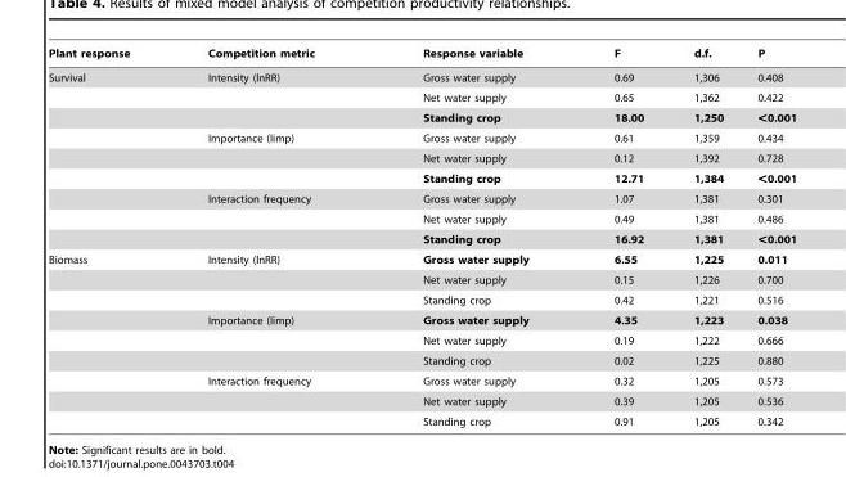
<table><thead><tr><td>Plant response</td><td>Competition metric</td><td>Response variable</td><td>F</td><td>d.f.</td><td>P</td></tr></thead><tbody><tr><td rowspan="9">Survival</td><td>Intensity (lnRR)</td><td>Gross water supply</td><td>0.69</td><td>1,306</td><td>0.408</td></tr><tr><td></td><td>Net water supply</td><td>0.65</td><td>1,362</td><td>0.422</td></tr><tr><td></td><td>Standing crop</td><td>18.00</td><td>1,250</td><td>&lt;0.001</td></tr><tr><td>Importance (Iimp)</td><td>Gross water supply</td><td>0.61</td><td>1,359</td><td>0.434</td></tr><tr><td></td><td>Net water supply</td><td>0.12</td><td>1,392</td><td>0.728</td></tr><tr><td></td><td>Standing crop</td><td>12.71</td><td>1,384</td><td>&lt;0.001</td></tr><tr><td>Interaction frequency</td><td>Gross water supply</td><td>1.07</td><td>1,381</td><td>0.301</td></tr><tr><td></td><td>Net water supply</td><td>0.49</td><td>1,381</td><td>0.486</td></tr><tr><td></td><td>Standing crop</td><td>16.92</td><td>1,381</td><td>&lt;0.001</td></tr><tr><td rowspan="9">Biomass</td><td>Intensity (lnRR)</td><td>Gross water supply</td><td>6.55</td><td>1,225</td><td>0.011</td></tr><tr><td></td><td>Net water supply</td><td>0.15</td><td>1,226</td><td>0.700</td></tr><tr><td></td><td>Standing crop</td><td>0.42</td><td>1,221</td><td>0.516</td></tr><tr><td>Importance (Iimp)</td><td>Gross water supply</td><td>4.35</td><td>1,223</td><td>0.038</td></tr><tr><td></td><td>Net water supply</td><td>0.19</td><td>1,222</td><td>0.666</td></tr><tr><td></td><td>Standing crop</td><td>0.02</td><td>1,225</td><td>0.880</td></tr><tr><td>Interaction frequency</td><td>Gross water supply</td><td>0.32</td><td>1,205</td><td>0.573</td></tr><tr><td></td><td>Net water supply</td><td>0.39</td><td>1,205</td><td>0.536</td></tr><tr><td></td><td>Standing crop</td><td>0.91</td><td>1,205</td><td>0.342</td></tr></tbody></table>